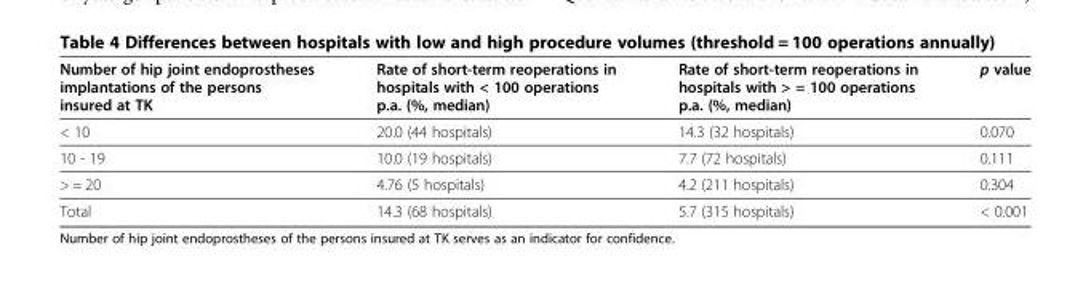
<table><thead><tr><td>Number of hip joint endoprostheses implantations of the persons insured at TK</td><td>Rate of short-term reoperations in hospitals with &lt; 100 operations p.a. (%, median)</td><td>Rate of short-term reoperations in hospitals with &gt; = 100 operations p.a. (%, median)</td><td>p value</td></tr></thead><tbody><tr><td>&lt; 10</td><td>20.0 (44 hospitals)</td><td>14.3 (32 hospitals)</td><td>0.070</td></tr><tr><td>10 - 19</td><td>10.0 (19 hospitals)</td><td>7.7 (72 hospitals)</td><td>0.111</td></tr><tr><td>&gt; = 20</td><td>4.76 (5 hospitals)</td><td>4.2 (211 hospitals)</td><td>0.304</td></tr><tr><td>Total</td><td>14.3 (68 hospitals)</td><td>5.7 (315 hospitals)</td><td>&lt; 0.001</td></tr></tbody></table>